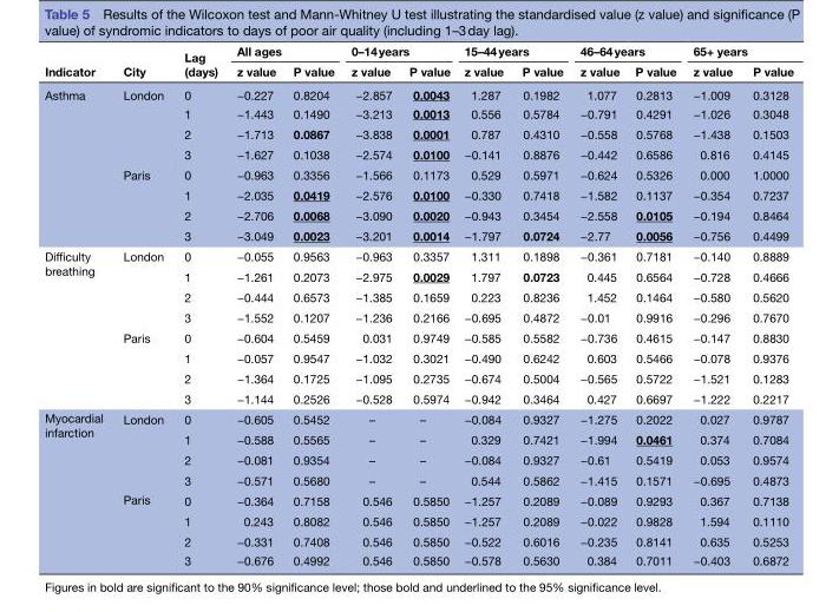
<table><thead><tr><td rowspan="2">Indicator</td><td rowspan="2">City</td><td rowspan="2">Lag (days)</td><td colspan="2">All ages</td><td colspan="2">0–14 years</td><td colspan="2">15–44 years</td><td colspan="2">46–64 years</td><td colspan="2">65+ years</td></tr><tr><td>z value</td><td>P value</td><td>z value</td><td>P value</td><td>z value</td><td>P value</td><td>z value</td><td>P value</td><td>z value</td><td>P value</td></tr></thead><tbody><tr><td rowspan="8">Asthma</td><td rowspan="4">London</td><td>0</td><td>−0.227</td><td>0.8204</td><td>−2.857</td><td>0.0043</td><td>1.287</td><td>0.1982</td><td>1.077</td><td>0.2813</td><td>−1.009</td><td>0.3128</td></tr><tr><td>1</td><td>−1.443</td><td>0.1490</td><td>−3.213</td><td>0.0013</td><td>0.556</td><td>0.5784</td><td>−0.791</td><td>0.4291</td><td>−1.026</td><td>0.3048</td></tr><tr><td>2</td><td>−1.713</td><td>0.0867</td><td>−3.838</td><td>0.0001</td><td>0.787</td><td>0.4310</td><td>−0.558</td><td>0.5768</td><td>−1.438</td><td>0.1503</td></tr><tr><td>3</td><td>−1.627</td><td>0.1038</td><td>−2.574</td><td>0.0100</td><td>−0.141</td><td>0.8876</td><td>−0.442</td><td>0.6586</td><td>0.816</td><td>0.4145</td></tr><tr><td rowspan="4">Paris</td><td>0</td><td>−0.963</td><td>0.3356</td><td>−1.566</td><td>0.1173</td><td>0.529</td><td>0.5971</td><td>−0.624</td><td>0.5326</td><td>0.000</td><td>1.0000</td></tr><tr><td>1</td><td>−2.035</td><td>0.0419</td><td>−2.576</td><td>0.0100</td><td>−0.330</td><td>0.7418</td><td>−1.582</td><td>0.1137</td><td>−0.354</td><td>0.7237</td></tr><tr><td>2</td><td>−2.706</td><td>0.0068</td><td>−3.090</td><td>0.0020</td><td>−0.943</td><td>0.3454</td><td>−2.558</td><td>0.0105</td><td>−0.194</td><td>0.8464</td></tr><tr><td>3</td><td>−3.049</td><td>0.0023</td><td>−3.201</td><td>0.0014</td><td>−1.797</td><td>0.0724</td><td>−2.77</td><td>0.0056</td><td>−0.756</td><td>0.4499</td></tr><tr><td rowspan="8">Difficulty breathing</td><td rowspan="4">London</td><td>0</td><td>−0.055</td><td>0.9563</td><td>−0.963</td><td>0.3357</td><td>1.311</td><td>0.1898</td><td>−0.361</td><td>0.7181</td><td>−0.140</td><td>0.8889</td></tr><tr><td>1</td><td>−1.261</td><td>0.2073</td><td>−2.975</td><td>0.0029</td><td>1.797</td><td>0.0723</td><td>0.445</td><td>0.6564</td><td>−0.728</td><td>0.4666</td></tr><tr><td>2</td><td>−0.444</td><td>0.6573</td><td>−1.385</td><td>0.1659</td><td>0.223</td><td>0.8236</td><td>1.452</td><td>0.1464</td><td>−0.580</td><td>0.5620</td></tr><tr><td>3</td><td>−1.552</td><td>0.1207</td><td>−1.236</td><td>0.2166</td><td>−0.695</td><td>0.4872</td><td>−0.01</td><td>0.9916</td><td>−0.296</td><td>0.7670</td></tr><tr><td rowspan="4">Paris</td><td>0</td><td>−0.604</td><td>0.5459</td><td>0.031</td><td>0.9749</td><td>−0.585</td><td>0.5582</td><td>−0.736</td><td>0.4615</td><td>−0.147</td><td>0.8830</td></tr><tr><td>1</td><td>−0.057</td><td>0.9547</td><td>−1.032</td><td>0.3021</td><td>−0.490</td><td>0.6242</td><td>0.603</td><td>0.5466</td><td>−0.078</td><td>0.9376</td></tr><tr><td>2</td><td>−1.364</td><td>0.1725</td><td>−1.095</td><td>0.2735</td><td>−0.674</td><td>0.5004</td><td>−0.565</td><td>0.5722</td><td>−1.521</td><td>0.1283</td></tr><tr><td>3</td><td>−1.144</td><td>0.2526</td><td>−0.528</td><td>0.5974</td><td>−0.942</td><td>0.3464</td><td>0.427</td><td>0.6697</td><td>−1.222</td><td>0.2217</td></tr><tr><td rowspan="8">Myocardial infarction</td><td rowspan="4">London</td><td>0</td><td>−0.605</td><td>0.5452</td><td>–</td><td>–</td><td>−0.084</td><td>0.9327</td><td>−1.275</td><td>0.2022</td><td>0.027</td><td>0.9787</td></tr><tr><td>1</td><td>−0.588</td><td>0.5565</td><td>–</td><td>–</td><td>0.329</td><td>0.7421</td><td>−1.994</td><td>0.0461</td><td>0.374</td><td>0.7084</td></tr><tr><td>2</td><td>−0.081</td><td>0.9354</td><td>–</td><td>–</td><td>−0.084</td><td>0.9327</td><td>−0.61</td><td>0.5419</td><td>0.053</td><td>0.9574</td></tr><tr><td>3</td><td>−0.571</td><td>0.5680</td><td>–</td><td>–</td><td>0.544</td><td>0.5862</td><td>−1.415</td><td>0.1571</td><td>−0.695</td><td>0.4873</td></tr><tr><td rowspan="4">Paris</td><td>0</td><td>−0.364</td><td>0.7158</td><td>0.546</td><td>0.5850</td><td>−1.257</td><td>0.2089</td><td>−0.089</td><td>0.9293</td><td>0.367</td><td>0.7138</td></tr><tr><td>1</td><td>0.243</td><td>0.8082</td><td>0.546</td><td>0.5850</td><td>−1.257</td><td>0.2089</td><td>−0.022</td><td>0.9828</td><td>1.594</td><td>0.1110</td></tr><tr><td>2</td><td>−0.331</td><td>0.7408</td><td>0.546</td><td>0.5850</td><td>−0.522</td><td>0.6016</td><td>−0.235</td><td>0.8141</td><td>0.635</td><td>0.5253</td></tr><tr><td>3</td><td>−0.676</td><td>0.4992</td><td>0.546</td><td>0.5850</td><td>−0.578</td><td>0.5630</td><td>0.384</td><td>0.7011</td><td>−0.403</td><td>0.6872</td></tr></tbody></table>